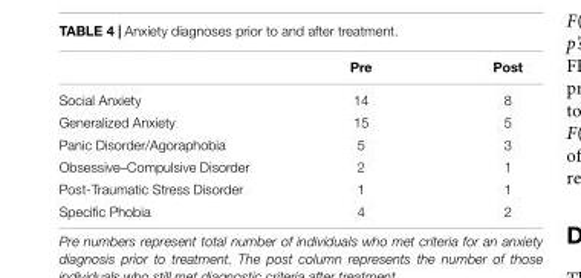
<table><thead><tr><td></td><td>Pre</td><td>Post</td></tr></thead><tbody><tr><td>Social Anxiety</td><td>14</td><td>8</td></tr><tr><td>Generalized Anxiety</td><td>15</td><td>5</td></tr><tr><td>Panic Disorder/Agoraphobia</td><td>5</td><td>3</td></tr><tr><td>Obsessive–Compulsive Disorder</td><td>2</td><td>1</td></tr><tr><td>Post-Traumatic Stress Disorder</td><td>1</td><td>1</td></tr><tr><td>Specific Phobia</td><td>4</td><td>2</td></tr></tbody></table>